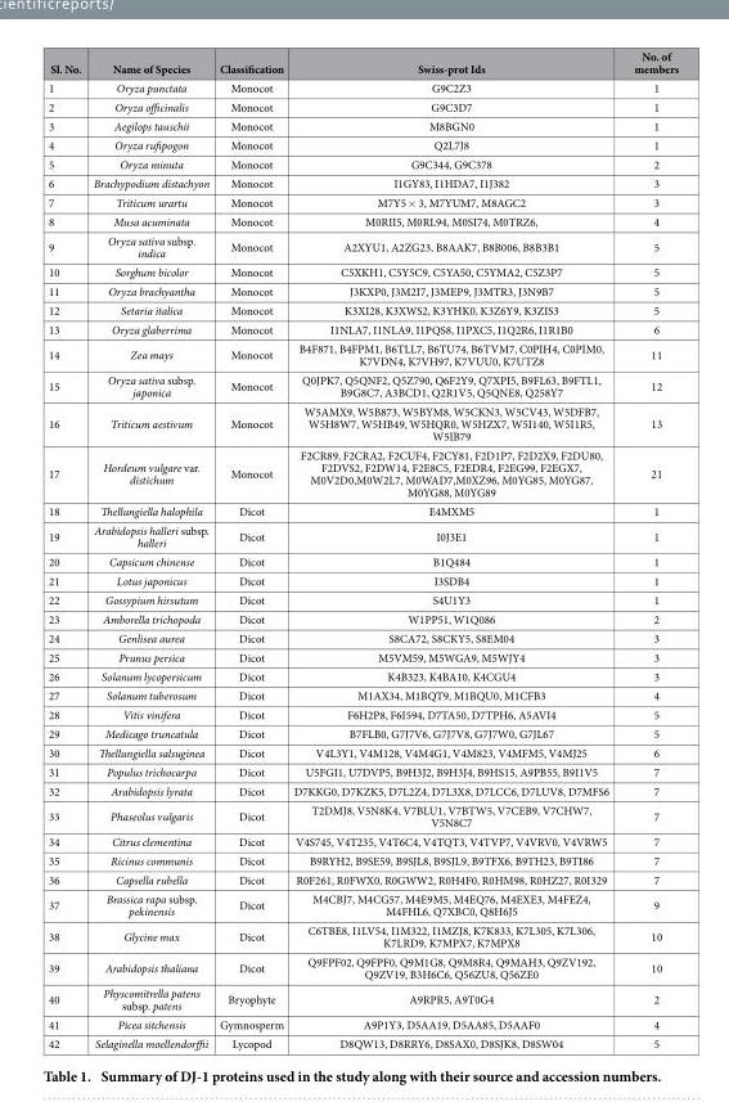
<table><thead><tr><td>Sl. No.</td><td>Name of Species</td><td>Classification</td><td>Swiss-prot Ids</td><td>No. of members</td></tr></thead><tbody><tr><td>1</td><td>Oryza punctata</td><td>Monocot</td><td>G9C2Z3</td><td>1</td></tr><tr><td>2</td><td>Oryza officinalis</td><td>Monocot</td><td>G9C3D7</td><td>1</td></tr><tr><td>3</td><td>Aegilops tauschii</td><td>Monocot</td><td>M8BGN0</td><td>1</td></tr><tr><td>4</td><td>Oryza rufipogon</td><td>Monocot</td><td>Q2L7J8</td><td>1</td></tr><tr><td>5</td><td>Oryza minuta</td><td>Monocot</td><td>G9C344, G9C378</td><td>2</td></tr><tr><td>6</td><td>Brachypodium distachyon</td><td>Monocot</td><td>I1GY83, I1HDA7, I1J382</td><td>3</td></tr><tr><td>7</td><td>Triticum urartu</td><td>Monocot</td><td>M7Y5 × 3, M7YUM7, M8AGC2</td><td>3</td></tr><tr><td>8</td><td>Musa acuminata</td><td>Monocot</td><td>M0RII5, M0RL94, M0SI74, M0TRZ6,</td><td>4</td></tr><tr><td>9</td><td>Oryza sativa subsp. indica</td><td>Monocot</td><td>A2XYU1, A2ZG23, B8AAK7, B8B006, B8B3B1</td><td>5</td></tr><tr><td>10</td><td>Sorghum bicolor</td><td>Monocot</td><td>C5XKH1, C5Y5C9, C5YA50, C5YMA2, C5Z3P7</td><td>5</td></tr><tr><td>11</td><td>Oryza brachyantha</td><td>Monocot</td><td>J3KXP0, J3M2I7, J3MEP9, J3MTR3, J3N9B7</td><td>5</td></tr><tr><td>12</td><td>Setaria italica</td><td>Monocot</td><td>K3XI28, K3XWS2, K3YHK0, K3Z6Y9, K3ZIS3</td><td>5</td></tr><tr><td>13</td><td>Oryza glaberrima</td><td>Monocot</td><td>I1NLA7, I1NLA9, I1PQS8, I1PXC5, I1Q2R6, I1R1B0</td><td>6</td></tr><tr><td>14</td><td>Zea mays</td><td>Monocot</td><td>B4F871, B4FPM1, B6TLL7, B6TU74, B6TVM7, C0PIH4, C0PIM0, K7VDN4, K7VH97, K7VUU0, K7UTZ8</td><td>11</td></tr><tr><td>15</td><td>Oryza sativa subsp. japonica</td><td>Monocot</td><td>Q0JPK7, Q5QNF2, Q5Z790, Q6F2Y9, Q7XPI5, B9FL63, B9FTL1, B9G8C7, A3BCD1, Q2R1V5, Q5QNE8, Q258Y7</td><td>12</td></tr><tr><td>16</td><td>Triticum aestivum</td><td>Monocot</td><td>W5AMX9, W5B873, W5BYM8, W5CKN3, W5CV43, W5DFB7, W5H8W7, W5HB49, W5HQR0, W5HZX7, W5I140, W5I1R5, W5IB79</td><td>13</td></tr><tr><td>17</td><td>Hordeum vulgare var. distichum</td><td>Monocot</td><td>F2CR89, F2CRA2, F2CUF4, F2CY81, F2D1P7, F2D2X9, F2DU80, F2DVS2, F2DW14, F2E8C5, F2EDR4, F2EG99, F2EGX7, M0V2D0,M0W2L7, M0WAD7,M0XZ96, M0YG85, M0YG87, M0YG88, M0YG89</td><td>21</td></tr><tr><td>18</td><td>Thellungiella halophila</td><td>Dicot</td><td>E4MXM5</td><td>1</td></tr><tr><td>19</td><td>Arabidopsis halleri subsp. halleri</td><td>Dicot</td><td>I0J3E1</td><td>1</td></tr><tr><td>20</td><td>Capsicum chinense</td><td>Dicot</td><td>B1Q484</td><td>1</td></tr><tr><td>21</td><td>Lotus japonicus</td><td>Dicot</td><td>I3SDB4</td><td>1</td></tr><tr><td>22</td><td>Gossypium hirsutum</td><td>Dicot</td><td>S4U1Y3</td><td>1</td></tr><tr><td>23</td><td>Amborella trichopoda</td><td>Dicot</td><td>W1PP51, W1Q086</td><td>2</td></tr><tr><td>24</td><td>Genlisea aurea</td><td>Dicot</td><td>S8CA72, S8CKY5, S8EM04</td><td>3</td></tr><tr><td>25</td><td>Prunus persica</td><td>Dicot</td><td>M5VM59, M5WGA9, M5WJY4</td><td>3</td></tr><tr><td>26</td><td>Solanum lycopersicum</td><td>Dicot</td><td>K4B323, K4BA10, K4CGU4</td><td>3</td></tr><tr><td>27</td><td>Solanum tuberosum</td><td>Dicot</td><td>M1AX34, M1BQT9, M1BQU0, M1CFB3</td><td>4</td></tr><tr><td>28</td><td>Vitis vinifera</td><td>Dicot</td><td>F6H2P8, F6I594, D7TA50, D7TPH6, A5AVI4</td><td>5</td></tr><tr><td>29</td><td>Medicago truncatula</td><td>Dicot</td><td>B7FLB0, G7J7V6, G7J7V8, G7J7W0, G7JL67</td><td>5</td></tr><tr><td>30</td><td>Thellungiella salsuginea</td><td>Dicot</td><td>V4L3Y1, V4M128, V4M4G1, V4M823, V4MFM5, V4MJ25</td><td>6</td></tr><tr><td>31</td><td>Populus trichocarpa</td><td>Dicot</td><td>U5FGI1, U7DVP5, B9H3J2, B9H3J4, B9HS15, A9PB55, B9I1V5</td><td>7</td></tr><tr><td>32</td><td>Arabidopsis lyrata</td><td>Dicot</td><td>D7KKG0, D7KZK5, D7L2Z4, D7L3X8, D7LCC6, D7LUV8, D7MFS6</td><td>7</td></tr><tr><td>33</td><td>Phaseolus vulgaris</td><td>Dicot</td><td>T2DMJ8, V5N8K4, V7BLU1, V7BTW5, V7CEB9, V7CHW7, V5N8C7</td><td>7</td></tr><tr><td>34</td><td>Citrus clementina</td><td>Dicot</td><td>V4S745, V4T235, V4T6C4, V4TQT3, V4TVP7, V4VRV0, V4VRW5</td><td>7</td></tr><tr><td>35</td><td>Ricinus communis</td><td>Dicot</td><td>B9RYH2, B9SE59, B9SJL8, B9SJL9, B9TFX6, B9TH23, B9TI86</td><td>7</td></tr><tr><td>36</td><td>Capsella rubella</td><td>Dicot</td><td>R0F261, R0FWX0, R0GWW2, R0H4F0, R0HM98, R0HZ27, R0I329</td><td>7</td></tr><tr><td>37</td><td>Brassica rapa subsp. pekinensis</td><td>Dicot</td><td>M4CBJ7, M4CG57, M4E9M5, M4EQ76, M4EXE3, M4FEZ4, M4FHL6, Q7XBC0, Q8H6J5</td><td>9</td></tr><tr><td>38</td><td>Glycine max</td><td>Dicot</td><td>C6TBE8, I1LV54, I1M322, I1MZJ8, K7K833, K7L305, K7L306, K7LRD9, K7MPX7, K7MPX8</td><td>10</td></tr><tr><td>39</td><td>Arabidopsis thaliana</td><td>Dicot</td><td>Q9FPF02, Q9FPF0, Q9M1G8, Q9M8R4, Q9MAH3, Q9ZV192, Q9ZV19, B3H6C6, Q56ZU8, Q56ZE0</td><td>10</td></tr><tr><td>40</td><td>Physcomitrella patens subsp. patens</td><td>Bryophyte</td><td>A9RPR5, A9T0G4</td><td>2</td></tr><tr><td>41</td><td>Picea sitchensis</td><td>Gymnosperm</td><td>A9P1Y3, D5AA19, D5AA85, D5AAF0</td><td>4</td></tr><tr><td>42</td><td>Selaginella moellendorffii</td><td>Lycopod</td><td>D8QW13, D8RRY6, D8SAX0, D8SJK8, D8SW04</td><td>5</td></tr></tbody></table>